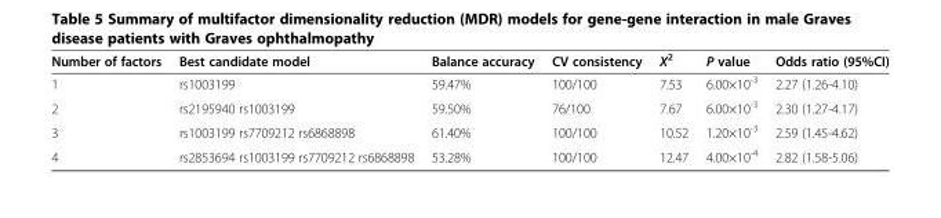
<table><thead><tr><td>Number of factors</td><td>Best candidate model</td><td>Balance accuracy</td><td>CV consistency</td><td>X<sup>2</sup></td><td>P value</td><td>Odds ratio (95%CI)</td></tr></thead><tbody><tr><td>1</td><td>rs1003199</td><td>59.47%</td><td>100/100</td><td>7.53</td><td>6.00×10<sup>-3</sup></td><td>2.27 (1.26-4.10)</td></tr><tr><td>2</td><td>rs2195940 rs1003199</td><td>59.50%</td><td>76/100</td><td>7.67</td><td>6.00×10<sup>-3</sup></td><td>2.30 (1.27-4.17)</td></tr><tr><td>3</td><td>rs1003199 rs7709212 rs6868898</td><td>61.40%</td><td>100/100</td><td>10.52</td><td>1.20×10<sup>-3</sup></td><td>2.59 (1.45-4.62)</td></tr><tr><td>4</td><td>rs2853694 rs1003199 rs7709212 rs6868898</td><td>53.28%</td><td>100/100</td><td>12.47</td><td>4.00×10<sup>-4</sup></td><td>2.82 (1.58-5.06)</td></tr></tbody></table>